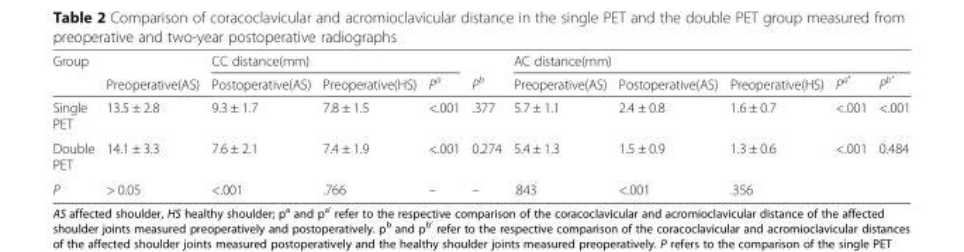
<table><thead><tr><td rowspan="2">Group</td><td rowspan="2">Preoperative(AS)</td><td colspan="3">CC distance(mm)</td><td rowspan="2">P<sup>b</sup></td><td colspan="5">AC distance(mm)</td></tr><tr><td>Postoperative(AS)</td><td>Preoperative(HS)</td><td>P<sup>a</sup></td><td>Preoperative(AS)</td><td>Postoperative(AS)</td><td>Preoperative(HS)</td><td>P<sup>a′</sup></td><td>P<sup>b′</sup></td></tr></thead><tbody><tr><td>Single PET</td><td>13.5 ± 2.8</td><td>9.3 ± 1.7</td><td>7.8 ± 1.5</td><td>&lt;.001</td><td>.377</td><td>5.7 ± 1.1</td><td>2.4 ± 0.8</td><td>1.6 ± 0.7</td><td>&lt;.001</td><td>&lt;.001</td></tr><tr><td>Double PET</td><td>14.1 ± 3.3</td><td>7.6 ± 2.1</td><td>7.4 ± 1.9</td><td>&lt;.001</td><td>0.274</td><td>5.4 ± 1.3</td><td>1.5 ± 0.9</td><td>1.3 ± 0.6</td><td>&lt;.001</td><td>0.484</td></tr><tr><td>P</td><td>&gt; 0.05</td><td>&lt;.001</td><td>.766</td><td>–</td><td>–</td><td>.843</td><td>&lt;.001</td><td>.356</td><td></td><td></td></tr></tbody></table>